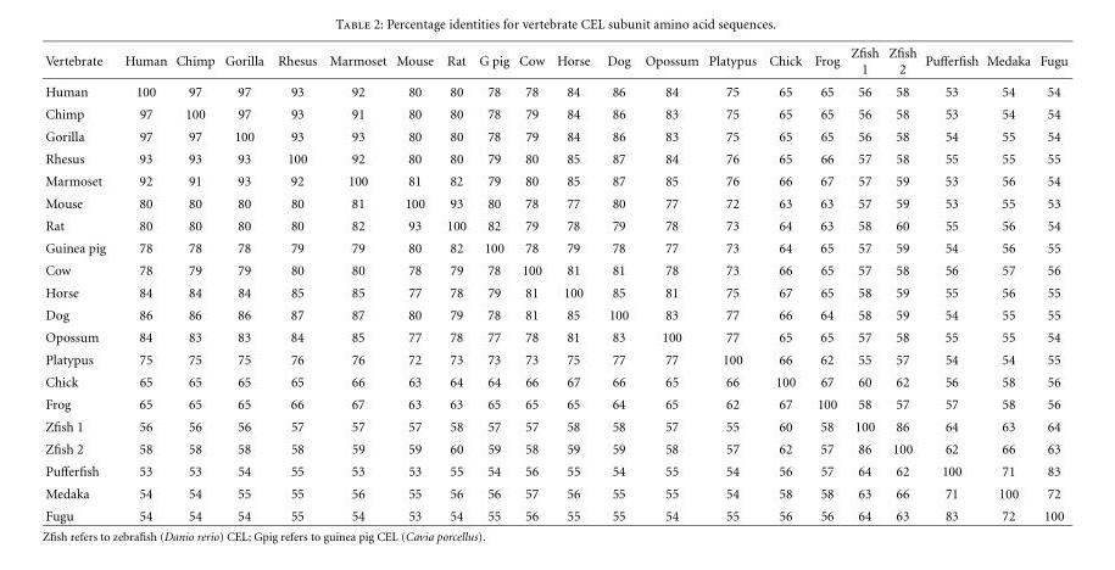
<table><thead><tr><td>Vertebrate</td><td>Human</td><td>Chimp</td><td>Gorilla</td><td>Rhesus</td><td>Marmoset</td><td>Mouse</td><td>Rat</td><td>G pig</td><td>Cow</td><td>Horse</td><td>Dog</td><td>Opossum</td><td>Platypus</td><td>Chick</td><td>Frog</td><td>Zfish 1</td><td>Zfish 2</td><td>Pufferfish</td><td>Medaka</td><td>Fugu</td></tr></thead><tbody><tr><td>Human</td><td>100</td><td>97</td><td>97</td><td>93</td><td>92</td><td>80</td><td>80</td><td>78</td><td>78</td><td>84</td><td>86</td><td>84</td><td>75</td><td>65</td><td>65</td><td>56</td><td>58</td><td>53</td><td>54</td><td>54</td></tr><tr><td>Chimp</td><td>97</td><td>100</td><td>97</td><td>93</td><td>91</td><td>80</td><td>80</td><td>78</td><td>79</td><td>84</td><td>86</td><td>83</td><td>75</td><td>65</td><td>65</td><td>56</td><td>58</td><td>53</td><td>54</td><td>54</td></tr><tr><td>Gorilla</td><td>97</td><td>97</td><td>100</td><td>93</td><td>93</td><td>80</td><td>80</td><td>78</td><td>79</td><td>84</td><td>86</td><td>83</td><td>75</td><td>65</td><td>65</td><td>56</td><td>58</td><td>54</td><td>55</td><td>54</td></tr><tr><td>Rhesus</td><td>93</td><td>93</td><td>93</td><td>100</td><td>92</td><td>80</td><td>80</td><td>79</td><td>80</td><td>85</td><td>87</td><td>84</td><td>76</td><td>65</td><td>66</td><td>57</td><td>58</td><td>55</td><td>55</td><td>55</td></tr><tr><td>Marmoset</td><td>92</td><td>91</td><td>93</td><td>92</td><td>100</td><td>81</td><td>82</td><td>79</td><td>80</td><td>85</td><td>87</td><td>85</td><td>76</td><td>66</td><td>67</td><td>57</td><td>59</td><td>53</td><td>56</td><td>54</td></tr><tr><td>Mouse</td><td>80</td><td>80</td><td>80</td><td>80</td><td>81</td><td>100</td><td>93</td><td>80</td><td>78</td><td>77</td><td>80</td><td>77</td><td>72</td><td>63</td><td>63</td><td>57</td><td>59</td><td>53</td><td>55</td><td>53</td></tr><tr><td>Rat</td><td>80</td><td>80</td><td>80</td><td>80</td><td>82</td><td>93</td><td>100</td><td>82</td><td>79</td><td>78</td><td>79</td><td>78</td><td>73</td><td>64</td><td>63</td><td>58</td><td>60</td><td>55</td><td>56</td><td>54</td></tr><tr><td>Guinea pig</td><td>78</td><td>78</td><td>78</td><td>79</td><td>79</td><td>80</td><td>82</td><td>100</td><td>78</td><td>79</td><td>78</td><td>77</td><td>73</td><td>64</td><td>65</td><td>57</td><td>59</td><td>54</td><td>56</td><td>55</td></tr><tr><td>Cow</td><td>78</td><td>79</td><td>79</td><td>80</td><td>80</td><td>78</td><td>79</td><td>78</td><td>100</td><td>81</td><td>81</td><td>78</td><td>73</td><td>66</td><td>65</td><td>57</td><td>58</td><td>56</td><td>57</td><td>56</td></tr><tr><td>Horse</td><td>84</td><td>84</td><td>84</td><td>85</td><td>85</td><td>77</td><td>78</td><td>79</td><td>81</td><td>100</td><td>85</td><td>81</td><td>75</td><td>67</td><td>65</td><td>58</td><td>59</td><td>55</td><td>56</td><td>55</td></tr><tr><td>Dog</td><td>86</td><td>86</td><td>86</td><td>87</td><td>87</td><td>80</td><td>79</td><td>78</td><td>81</td><td>85</td><td>100</td><td>83</td><td>77</td><td>66</td><td>64</td><td>58</td><td>59</td><td>54</td><td>55</td><td>55</td></tr><tr><td>Opossum</td><td>84</td><td>83</td><td>83</td><td>84</td><td>85</td><td>77</td><td>78</td><td>77</td><td>78</td><td>81</td><td>83</td><td>100</td><td>77</td><td>65</td><td>65</td><td>57</td><td>58</td><td>55</td><td>55</td><td>54</td></tr><tr><td>Platypus</td><td>75</td><td>75</td><td>75</td><td>76</td><td>76</td><td>72</td><td>73</td><td>73</td><td>73</td><td>75</td><td>77</td><td>77</td><td>100</td><td>66</td><td>62</td><td>55</td><td>57</td><td>54</td><td>54</td><td>55</td></tr><tr><td>Chick</td><td>65</td><td>65</td><td>65</td><td>65</td><td>66</td><td>63</td><td>64</td><td>64</td><td>66</td><td>67</td><td>66</td><td>65</td><td>66</td><td>100</td><td>67</td><td>60</td><td>62</td><td>56</td><td>58</td><td>56</td></tr><tr><td>Frog</td><td>65</td><td>65</td><td>65</td><td>66</td><td>67</td><td>63</td><td>63</td><td>65</td><td>65</td><td>65</td><td>64</td><td>65</td><td>62</td><td>67</td><td>100</td><td>58</td><td>57</td><td>57</td><td>58</td><td>56</td></tr><tr><td>Zfish 1</td><td>56</td><td>56</td><td>56</td><td>57</td><td>57</td><td>57</td><td>58</td><td>57</td><td>57</td><td>58</td><td>58</td><td>57</td><td>55</td><td>60</td><td>58</td><td>100</td><td>86</td><td>64</td><td>63</td><td>64</td></tr><tr><td>Zfish 2</td><td>58</td><td>58</td><td>58</td><td>58</td><td>59</td><td>59</td><td>60</td><td>59</td><td>58</td><td>59</td><td>59</td><td>58</td><td>57</td><td>62</td><td>57</td><td>86</td><td>100</td><td>62</td><td>66</td><td>63</td></tr><tr><td>Pufferfish</td><td>53</td><td>53</td><td>54</td><td>55</td><td>53</td><td>53</td><td>55</td><td>54</td><td>56</td><td>55</td><td>54</td><td>55</td><td>54</td><td>56</td><td>57</td><td>64</td><td>62</td><td>100</td><td>71</td><td>83</td></tr><tr><td>Medaka</td><td>54</td><td>54</td><td>55</td><td>55</td><td>56</td><td>55</td><td>56</td><td>56</td><td>57</td><td>56</td><td>55</td><td>55</td><td>54</td><td>58</td><td>58</td><td>63</td><td>66</td><td>71</td><td>100</td><td>72</td></tr><tr><td>Fugu</td><td>54</td><td>54</td><td>54</td><td>55</td><td>54</td><td>53</td><td>54</td><td>55</td><td>56</td><td>55</td><td>55</td><td>54</td><td>55</td><td>56</td><td>56</td><td>64</td><td>63</td><td>83</td><td>72</td><td>100</td></tr></tbody></table>